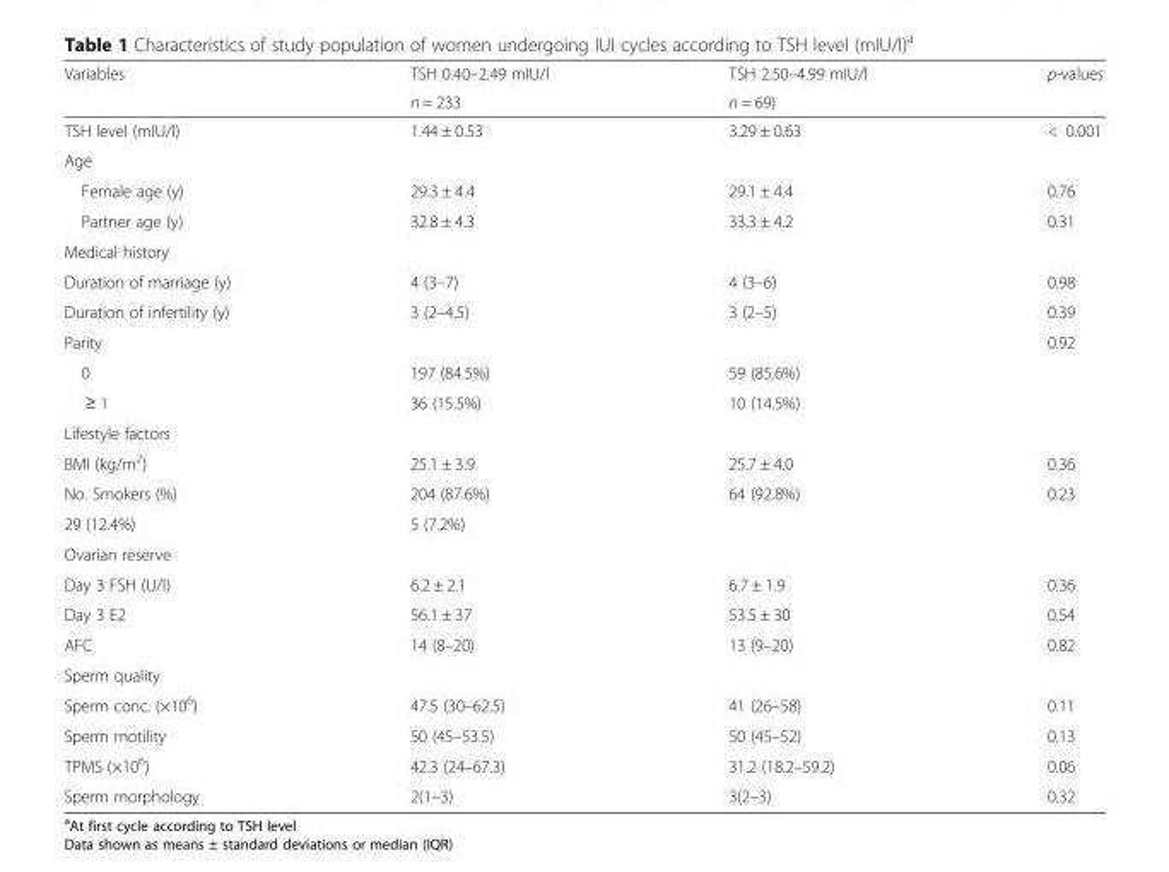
<table><thead><tr><td rowspan="2">Variables</td><td rowspan="2">TSH 0.40–2.49 mIU/l n = 233</td><td rowspan="2">TSH 2.50–4.99 mIU/l n = 69)</td><td rowspan="2">p-values</td></tr><tr></tr></thead><tbody><tr><td>TSH level (mIU/l)</td><td>1.44 ± 0.53</td><td>3.29 ± 0.63</td><td>&lt; 0.001</td></tr><tr><td colspan="4">Age</td></tr><tr><td>Female age (y)</td><td>29.3 ± 4.4</td><td>29.1 ± 4.4</td><td>0.76</td></tr><tr><td>Partner age (y)</td><td>32.8 ± 4.3</td><td>33.3 ± 4.2</td><td>0.31</td></tr><tr><td colspan="4">Medical history</td></tr><tr><td>Duration of marriage (y)</td><td>4 (3–7)</td><td>4 (3–6)</td><td>0.98</td></tr><tr><td>Duration of infertility (y)</td><td>3 (2–4.5)</td><td>3 (2–5)</td><td>0.39</td></tr><tr><td>Parity</td><td></td><td></td><td>0.92</td></tr><tr><td>0</td><td>197 (84.5%)</td><td>59 (85.6%)</td><td></td></tr><tr><td>≥ 1</td><td>36 (15.5%)</td><td>10 (14.5%)</td><td></td></tr><tr><td colspan="4">Lifestyle factors</td></tr><tr><td>BMI (kg/m<sup>2</sup>)</td><td>25.1 ± 3.9</td><td>25.7 ± 4.0</td><td>0.36</td></tr><tr><td>No. Smokers (%)</td><td>204 (87.6%)</td><td>64 (92.8%)</td><td>0.23</td></tr><tr><td>29 (12.4%)</td><td>5 (7.2%)</td><td></td><td></td></tr><tr><td colspan="4">Ovarian reserve</td></tr><tr><td>Day 3 FSH (U/l)</td><td>6.2 ± 2.1</td><td>6.7 ± 1.9</td><td>0.36</td></tr><tr><td>Day 3 E2</td><td>56.1 ± 37</td><td>53.5 ± 30</td><td>0.54</td></tr><tr><td>AFC</td><td>14 (8–20)</td><td>13 (9–20)</td><td>0.82</td></tr><tr><td colspan="4">Sperm quality</td></tr><tr><td>Sperm conc. (×10<sup>6</sup>)</td><td>47.5 (30–62.5)</td><td>41 (26–58)</td><td>0.11</td></tr><tr><td>Sperm motility</td><td>50 (45–53.5)</td><td>50 (45–52)</td><td>0.13</td></tr><tr><td>TPMS (×10<sup>6</sup>)</td><td>42.3 (24–67.3)</td><td>31.2 (18.2–59.2)</td><td>0.06</td></tr><tr><td>Sperm morphology</td><td>2(1–3)</td><td>3(2–3)</td><td>0.32</td></tr></tbody></table>